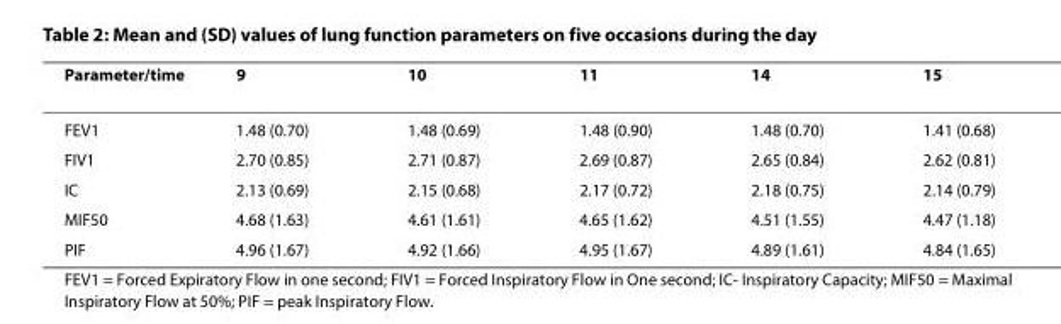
<table><thead><tr><td>Parameter/time</td><td>9</td><td>10</td><td>11</td><td>14</td><td>15</td></tr></thead><tbody><tr><td>FEV1</td><td>1.48 (0.70)</td><td>1.48 (0.69)</td><td>1.48 (0.90)</td><td>1.48 (0.70)</td><td>1.41 (0.68)</td></tr><tr><td>FIV1</td><td>2.70 (0.85)</td><td>2.71 (0.87)</td><td>2.69 (0.87)</td><td>2.65 (0.84)</td><td>2.62 (0.81)</td></tr><tr><td>IC</td><td>2.13 (0.69)</td><td>2.15 (0.68)</td><td>2.17 (0.72)</td><td>2.18 (0.75)</td><td>2.14 (0.79)</td></tr><tr><td>MIF50</td><td>4.68 (1.63)</td><td>4.61 (1.61)</td><td>4.65 (1.62)</td><td>4.51 (1.55)</td><td>4.47 (1.18)</td></tr><tr><td>PIF</td><td>4.96 (1.67)</td><td>4.92 (1.66)</td><td>4.95 (1.67)</td><td>4.89 (1.61)</td><td>4.84 (1.65)</td></tr></tbody></table>